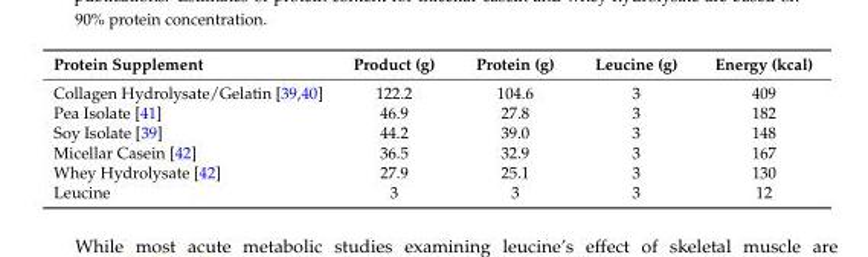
<table><thead><tr><td>Protein Supplement</td><td>Product (g)</td><td>Protein (g)</td><td>Leucine (g)</td><td>Energy (kcal)</td></tr></thead><tbody><tr><td>Collagen Hydrolysate/Gelatin [39,40]</td><td>122.2</td><td>104.6</td><td>3</td><td>409</td></tr><tr><td>Pea Isolate [41]</td><td>46.9</td><td>27.8</td><td>3</td><td>182</td></tr><tr><td>Soy Isolate [39]</td><td>44.2</td><td>39.0</td><td>3</td><td>148</td></tr><tr><td>Micellar Casein [42]</td><td>36.5</td><td>32.9</td><td>3</td><td>167</td></tr><tr><td>Whey Hydrolysate [42]</td><td>27.9</td><td>25.1</td><td>3</td><td>130</td></tr><tr><td>Leucine</td><td>3</td><td>3</td><td>3</td><td>12</td></tr></tbody></table>